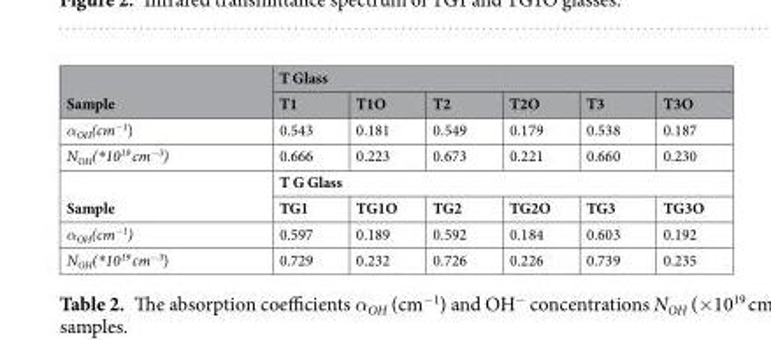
<table><thead><tr><td rowspan="2">Sample</td><td colspan="6">T Glass</td></tr><tr><td>T1</td><td>T1O</td><td>T2</td><td>T2O</td><td>T3</td><td>T3O</td></tr></thead><tbody><tr><td>α<sub>OH</sub>(cm<sup>−1</sup>)</td><td>0.543</td><td>0.181</td><td>0.549</td><td>0.179</td><td>0.538</td><td>0.187</td></tr><tr><td>N<sub>OH</sub>(*10<sup>19</sup> cm<sup>−3</sup>)</td><td>0.666</td><td>0.223</td><td>0.673</td><td>0.221</td><td>0.660</td><td>0.230</td></tr><tr><td rowspan="2">Sample</td><td colspan="6">T G Glass</td></tr><tr><td>TG1</td><td>TG1O</td><td>TG2</td><td>TG2O</td><td>TG3</td><td>TG3O</td></tr><tr><td>α<sub>OH</sub>(cm<sup>−1</sup>)</td><td>0.597</td><td>0.189</td><td>0.592</td><td>0.184</td><td>0.603</td><td>0.192</td></tr><tr><td>N<sub>OH</sub>(*10<sup>19</sup> cm<sup>−3</sup>)</td><td>0.729</td><td>0.232</td><td>0.726</td><td>0.226</td><td>0.739</td><td>0.235</td></tr></tbody></table>